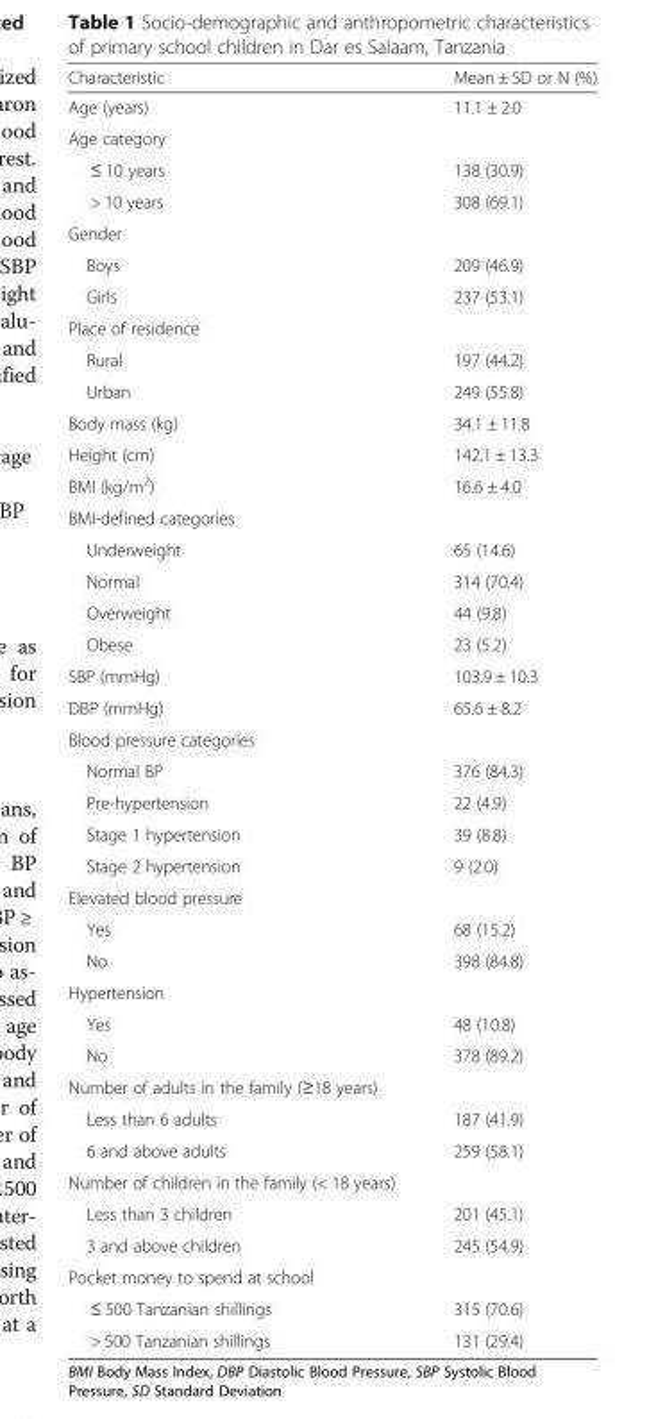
<table><thead><tr><td>Characteristic</td><td>Mean ± SD or N (%)</td></tr></thead><tbody><tr><td>Age (years)</td><td>11.1 ± 2.0</td></tr><tr><td colspan="2">Age category</td></tr><tr><td>≤ 10 years</td><td>138 (30.9)</td></tr><tr><td>&gt; 10 years</td><td>308 (69.1)</td></tr><tr><td colspan="2">Gender</td></tr><tr><td>Boys</td><td>209 (46.9)</td></tr><tr><td>Girls</td><td>237 (53.1)</td></tr><tr><td colspan="2">Place of residence</td></tr><tr><td>Rural</td><td>197 (44.2)</td></tr><tr><td>Urban</td><td>249 (55.8)</td></tr><tr><td>Body mass (kg)</td><td>34.1 ± 11.8</td></tr><tr><td>Height (cm)</td><td>142.1 ± 13.3</td></tr><tr><td>BMI (kg/m<sup>2</sup>)</td><td>16.6 ± 4.0</td></tr><tr><td colspan="2">BMI-defined categories</td></tr><tr><td>Underweight</td><td>65 (14.6)</td></tr><tr><td>Normal</td><td>314 (70.4)</td></tr><tr><td>Overweight</td><td>44 (9.8)</td></tr><tr><td>Obese</td><td>23 (5.2)</td></tr><tr><td>SBP (mmHg)</td><td>103.9 ± 10.3</td></tr><tr><td>DBP (mmHg)</td><td>65.6 ± 8.2</td></tr><tr><td colspan="2">Blood pressure categories</td></tr><tr><td>Normal BP</td><td>376 (84.3)</td></tr><tr><td>Pre-hypertension</td><td>22 (4.9)</td></tr><tr><td>Stage 1 hypertension</td><td>39 (8.8)</td></tr><tr><td>Stage 2 hypertension</td><td>9 (2.0)</td></tr><tr><td colspan="2">Elevated blood pressure</td></tr><tr><td>Yes</td><td>68 (15.2)</td></tr><tr><td>No</td><td>398 (84.8)</td></tr><tr><td colspan="2">Hypertension</td></tr><tr><td>Yes</td><td>48 (10.8)</td></tr><tr><td>No</td><td>378 (89.2)</td></tr><tr><td colspan="2">Number of adults in the family (≥18 years)</td></tr><tr><td>Less than 6 adults</td><td>187 (41.9)</td></tr><tr><td>6 and above adults</td><td>259 (58.1)</td></tr><tr><td colspan="2">Number of children in the family (&lt; 18 years)</td></tr><tr><td>Less than 3 children</td><td>201 (45.1)</td></tr><tr><td>3 and above children</td><td>245 (54.9)</td></tr><tr><td colspan="2">Pocket money to spend at school</td></tr><tr><td>≤ 500 Tanzanian shillings</td><td>315 (70.6)</td></tr><tr><td>&gt; 500 Tanzanian shillings</td><td>131 (29.4)</td></tr></tbody></table>